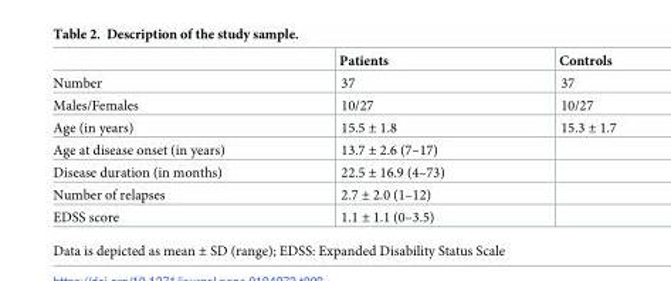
<table><thead><tr><td></td><td>Patients</td><td>Controls</td></tr></thead><tbody><tr><td>Number</td><td>37</td><td>37</td></tr><tr><td>Males/Females</td><td>10/27</td><td>10/27</td></tr><tr><td>Age (in years)</td><td>15.5 ± 1.8</td><td>15.3 ± 1.7</td></tr><tr><td>Age at disease onset (in years)</td><td>13.7 ± 2.6 (7–17)</td><td></td></tr><tr><td>Disease duration (in months)</td><td>22.5 ± 16.9 (4–73)</td><td></td></tr><tr><td>Number of relapses</td><td>2.7 ± 2.0 (1–12)</td><td></td></tr><tr><td>EDSS score</td><td>1.1 ± 1.1 (0–3.5)</td><td></td></tr></tbody></table>